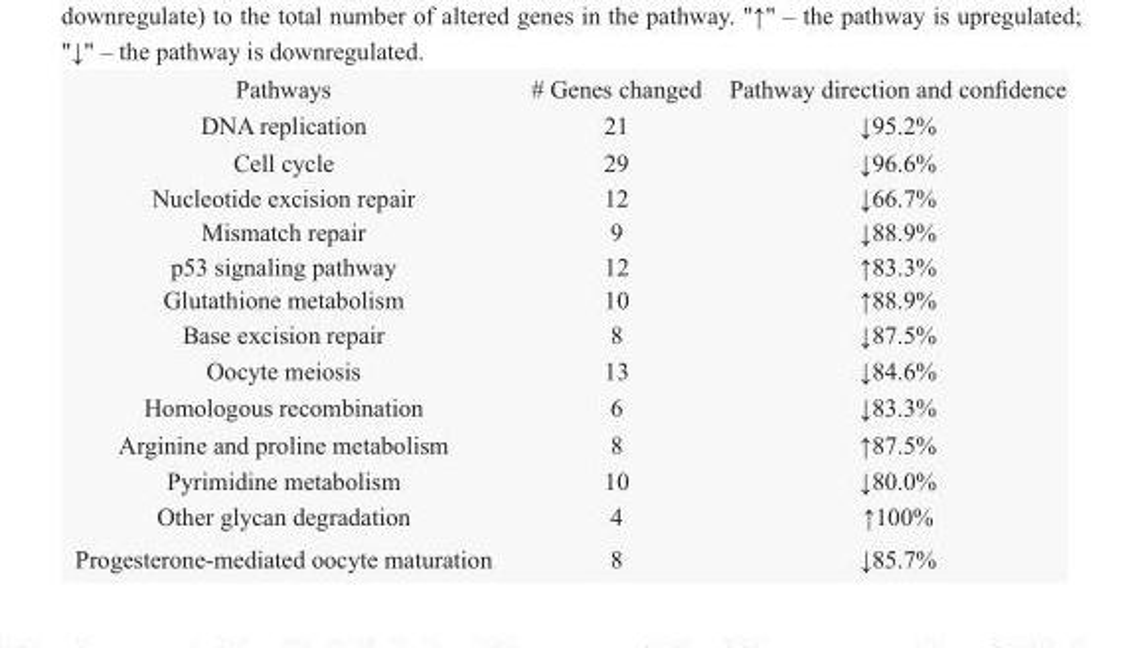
<table><thead><tr><td>Pathways</td><td># Genes changed</td><td>Pathway direction and confidence</td></tr></thead><tbody><tr><td>DNA replication</td><td>21</td><td>↓95.2%</td></tr><tr><td>Cell cycle</td><td>29</td><td>↓96.6%</td></tr><tr><td>Nucleotide excision repair</td><td>12</td><td>↓66.7%</td></tr><tr><td>Mismatch repair</td><td>9</td><td>↓88.9%</td></tr><tr><td>p53 signaling pathway</td><td>12</td><td>↑83.3%</td></tr><tr><td>Glutathione metabolism</td><td>10</td><td>↑88.9%</td></tr><tr><td>Base excision repair</td><td>8</td><td>↓87.5%</td></tr><tr><td>Oocyte meiosis</td><td>13</td><td>↓84.6%</td></tr><tr><td>Homologous recombination</td><td>6</td><td>↓83.3%</td></tr><tr><td>Arginine and proline metabolism</td><td>8</td><td>↑87.5%</td></tr><tr><td>Pyrimidine metabolism</td><td>10</td><td>↓80.0%</td></tr><tr><td>Other glycan degradation</td><td>4</td><td>↑100%</td></tr><tr><td>Progesterone-mediated oocyte maturation</td><td>8</td><td>↓85.7%</td></tr></tbody></table>